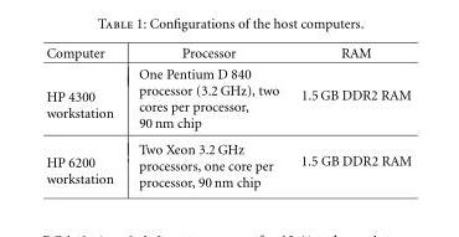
<table><tbody><tr><td>Computer</td><td>Processor</td><td>RAM</td></tr><tr><td>HP 4300 workstation</td><td>One Pentium D 840 processor (3.2 GHz), two cores per processor, 90 nm chip</td><td>1.5 GB DDR2 RAM</td></tr><tr><td>HP 6200 workstation</td><td>Two Xeon 3.2 GHz processors, one core per processor, 90 nm chip</td><td>1.5 GB DDR2 RAM</td></tr></tbody></table>